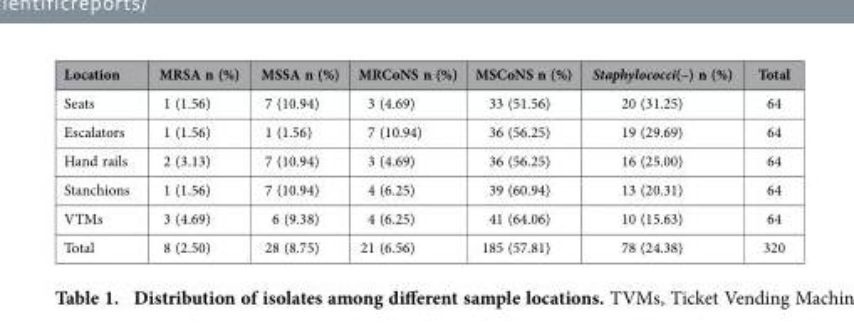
<table><thead><tr><td>Location</td><td>MRSA n (%)</td><td>MSSA n (%)</td><td>MRCoNS n (%)</td><td>MSCoNS n (%)</td><td>Staphylococci(–) n (%)</td><td>Total</td></tr></thead><tbody><tr><td>Seats</td><td>1 (1.56)</td><td>7 (10.94)</td><td>3 (4.69)</td><td>33 (51.56)</td><td>20 (31.25)</td><td>64</td></tr><tr><td>Escalators</td><td>1 (1.56)</td><td>1 (1.56)</td><td>7 (10.94)</td><td>36 (56.25)</td><td>19 (29.69)</td><td>64</td></tr><tr><td>Hand rails</td><td>2 (3.13)</td><td>7 (10.94)</td><td>3 (4.69)</td><td>36 (56.25)</td><td>16 (25.00)</td><td>64</td></tr><tr><td>Stanchions</td><td>1 (1.56)</td><td>7 (10.94)</td><td>4 (6.25)</td><td>39 (60.94)</td><td>13 (20.31)</td><td>64</td></tr><tr><td>VTMs</td><td>3 (4.69)</td><td>6 (9.38)</td><td>4 (6.25)</td><td>41 (64.06)</td><td>10 (15.63)</td><td>64</td></tr><tr><td>Total</td><td>8 (2.50)</td><td>28 (8.75)</td><td>21 (6.56)</td><td>185 (57.81)</td><td>78 (24.38)</td><td>320</td></tr></tbody></table>